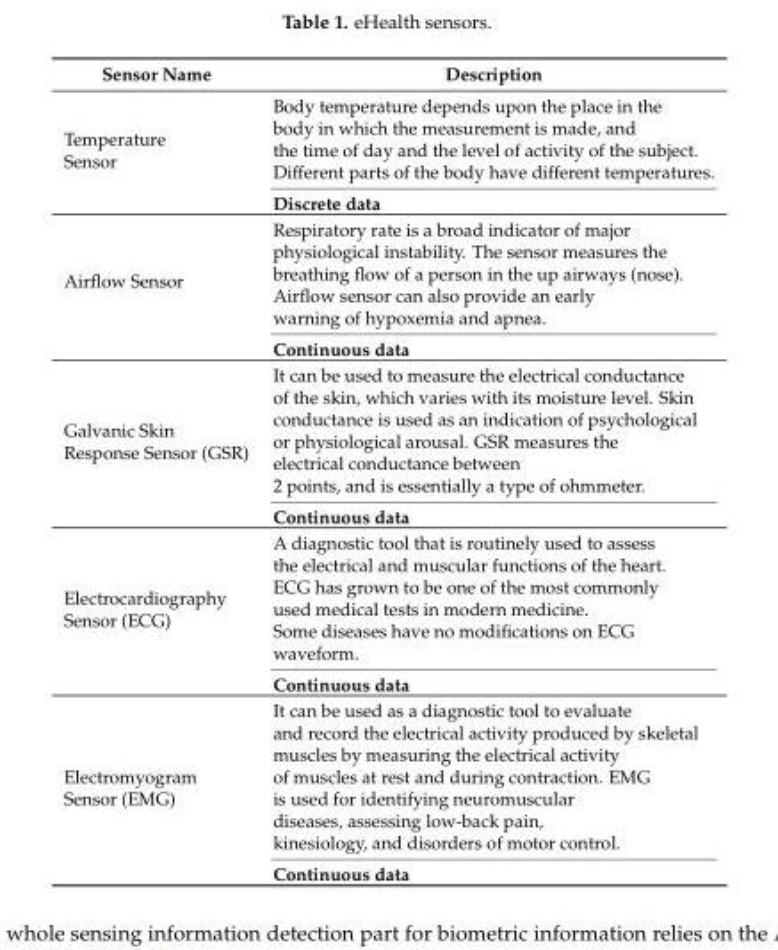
<table><thead><tr><td>Sensor Name</td><td>Description</td></tr></thead><tbody><tr><td rowspan="2">Temperature Sensor</td><td>Body temperature depends upon the place in the body in which the measurement is made, and the time of day and the level of activity of the subject. Different parts of the body have different temperatures.</td></tr><tr><td>Discrete data</td></tr><tr><td rowspan="2">Airflow Sensor</td><td>Respiratory rate is a broad indicator of major physiological instability. The sensor measures the breathing flow of a person in the up airways (nose). Airflow sensor can also provide an early warning of hypoxemia and apnea.</td></tr><tr><td>Continuous data</td></tr><tr><td rowspan="2">Galvanic Skin Response Sensor (GSR)</td><td>It can be used to measure the electrical conductance of the skin, which varies with its moisture level. Skin conductance is used as an indication of psychological or physiological arousal. GSR measures the electrical conductance between 2 points, and is essentially a type of ohmmeter.</td></tr><tr><td>Continuous data</td></tr><tr><td rowspan="2">Electrocardiography Sensor (ECG)</td><td>A diagnostic tool that is routinely used to assess the electrical and muscular functions of the heart. ECG has grown to be one of the most commonly used medical tests in modern medicine. Some diseases have no modifications on ECG waveform.</td></tr><tr><td>Continuous data</td></tr><tr><td rowspan="2">Electromyogram Sensor (EMG)</td><td>It can be used as a diagnostic tool to evaluate and record the electrical activity produced by skeletal muscles by measuring the electrical activity of muscles at rest and during contraction. EMG is used for identifying neuromuscular diseases, assessing low-back pain, kinesiology, and disorders of motor control.</td></tr><tr><td>Continuous data</td></tr></tbody></table>